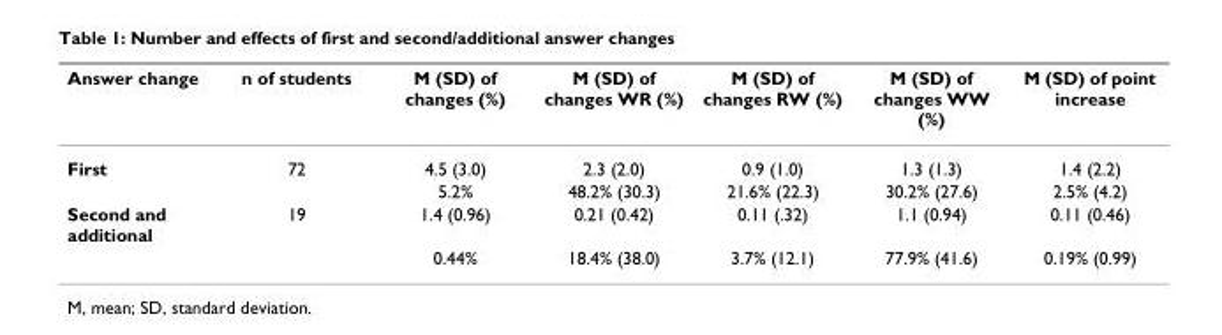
<table><thead><tr><td>Answer change</td><td>n of students</td><td>M (SD) of changes (%)</td><td>M (SD) of changes WR (%)</td><td>M (SD) of changes RW (%)</td><td>M (SD) of changes WW (%)</td><td>M (SD) of point increase</td></tr></thead><tbody><tr><td rowspan="2">First</td><td>72</td><td>4.5 (3.0)</td><td>2.3 (2.0)</td><td>0.9 (1.0)</td><td>1.3 (1.3)</td><td>1.4 (2.2)</td></tr><tr><td></td><td>5.2%</td><td>48.2% (30.3)</td><td>21.6% (22.3)</td><td>30.2% (27.6)</td><td>2.5% (4.2)</td></tr><tr><td rowspan="2">Second and additional</td><td>19</td><td>1.4 (0.96)</td><td>0.21 (0.42)</td><td>0.11 (.32)</td><td>1.1 (0.94)</td><td>0.11 (0.46)</td></tr><tr><td></td><td>0.44%</td><td>18.4% (38.0)</td><td>3.7% (12.1)</td><td>77.9% (41.6)</td><td>0.19% (0.99)</td></tr></tbody></table>